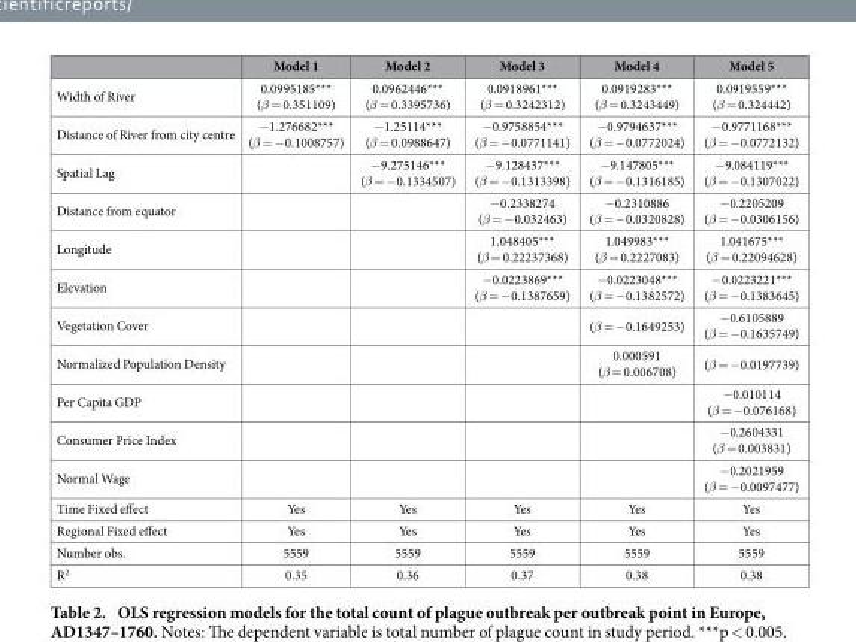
<table><thead><tr><td></td><td>Model 1</td><td>Model 2</td><td>Model 3</td><td>Model 4</td><td>Model 5</td></tr></thead><tbody><tr><td>Width of River</td><td>0.0995185*** (β = 0.351109)</td><td>0.0962446*** (β = 0.3395736)</td><td>0.0918961*** (β = 0.3242312)</td><td>0.0919283*** (β = 0.3243449)</td><td>0.0919559*** (β = 0.324442)</td></tr><tr><td>Distance of River from city centre</td><td>− 1.276682*** (β = − 0.1008757)</td><td>− 1.25114*** (β = 0.0988647)</td><td>− 0.9758854*** (β = − 0.0771141)</td><td>− 0.9794637*** (β = − 0.0772024)</td><td>− 0.9771168*** (β = − 0.0772132)</td></tr><tr><td>Spatial Lag</td><td></td><td>− 9.275146*** (β = − 0.1334507)</td><td>− 9.128437*** (β = − 0.1313398)</td><td>− 9.147805*** (β = − 0.1316185)</td><td>− 9.084119*** (β = − 0.1307022)</td></tr><tr><td>Distance from equator</td><td></td><td></td><td>− 0.2338274 (β = − 0.032463)</td><td>− 0.2310886 (β = − 0.0320828)</td><td>− 0.2205209 (β = − 0.0306156)</td></tr><tr><td>Longitude</td><td></td><td></td><td>1.048405*** (β = 0.22237368)</td><td>1.049983*** (β = 0.2227083)</td><td>1.041675*** (β = 0.22094628)</td></tr><tr><td>Elevation</td><td></td><td></td><td>− 0.0223869*** (β = − 0.1387659)</td><td>− 0.0223048*** (β = − 0.1382572)</td><td>− 0.0223221*** (β = − 0.1383645)</td></tr><tr><td>Vegetation Cover</td><td></td><td></td><td></td><td>(β = − 0.1649253)</td><td>− 0.6105889 (β = − 0.1635749)</td></tr><tr><td>Normalized Population Density</td><td></td><td></td><td></td><td>0.000591 (β = 0.006708)</td><td>(β = − 0.0197739)</td></tr><tr><td>Per Capita GDP</td><td></td><td></td><td></td><td></td><td>− 0.010114 (β = − 0.076168)</td></tr><tr><td>Consumer Price Index</td><td></td><td></td><td></td><td></td><td>− 0.2604331 (β = 0.003831)</td></tr><tr><td>Normal Wage</td><td></td><td></td><td></td><td></td><td>− 0.2021959 (β = − 0.0097477)</td></tr><tr><td>Time Fixed effect</td><td>Yes</td><td>Yes</td><td>Yes</td><td>Yes</td><td>Yes</td></tr><tr><td>Regional Fixed effect</td><td>Yes</td><td>Yes</td><td>Yes</td><td>Yes</td><td>Yes</td></tr><tr><td>Number obs.</td><td>5559</td><td>5559</td><td>5559</td><td>5559</td><td>5559</td></tr><tr><td>R<sup>2</sup></td><td>0.35</td><td>0.36</td><td>0.37</td><td>0.38</td><td>0.38</td></tr></tbody></table>